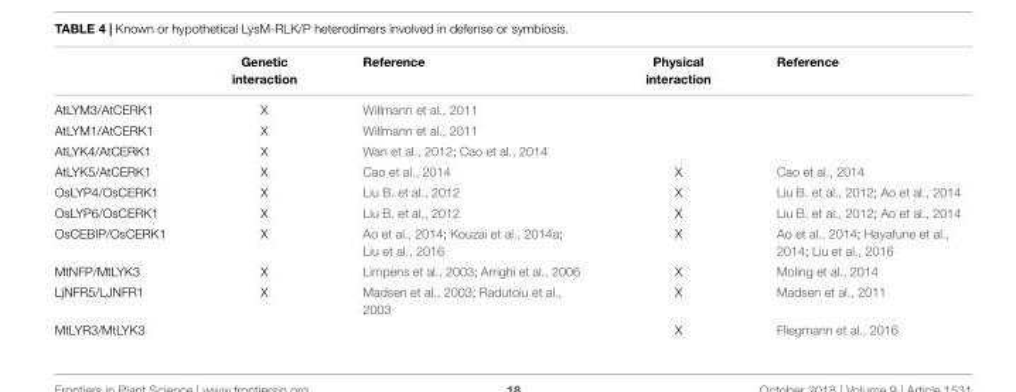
<table><thead><tr><td></td><td>Genetic interaction</td><td>Reference</td><td>Physical interaction</td><td>Reference</td></tr></thead><tbody><tr><td>AtLYM3/AtCERK1</td><td>X</td><td>Willmann et al., 2011</td><td></td><td></td></tr><tr><td>AtLYM1/AtCERK1</td><td>X</td><td>Willmann et al., 2011</td><td></td><td></td></tr><tr><td>AtLYK4/AtCERK1</td><td>X</td><td>Wan et al., 2012; Cao et al., 2014</td><td></td><td></td></tr><tr><td>AtLYK5/AtCERK1</td><td>X</td><td>Cao et al., 2014</td><td>X</td><td>Cao et al., 2014</td></tr><tr><td>OsLYP4/OsCERK1</td><td>X</td><td>Liu B. et al., 2012</td><td>X</td><td>Liu B. et al., 2012; Ao et al., 2014</td></tr><tr><td>OsLYP6/OsCERK1</td><td>X</td><td>Liu B. et al., 2012</td><td>X</td><td>Liu B. et al., 2012; Ao et al., 2014</td></tr><tr><td>OsCEBIP/OsCERK1</td><td>X</td><td>Ao et al., 2014; Kouzai et al., 2014a; Liu et al., 2016</td><td>X</td><td>Ao et al., 2014; Hayafune et al., 2014; Liu et al., 2016</td></tr><tr><td>MtNFP/MtLYK3</td><td>X</td><td>Limpens et al., 2003; Arrighi et al., 2006</td><td>X</td><td>Moling et al., 2014</td></tr><tr><td>LjNFR5/LJNFR1</td><td>X</td><td>Madsen et al., 2003; Radutoiu et al., 2003</td><td>X</td><td>Madsen et al., 2011</td></tr><tr><td>MtLYR3/MtLYK3</td><td></td><td></td><td>X</td><td>Fliegmann et al., 2016</td></tr></tbody></table>